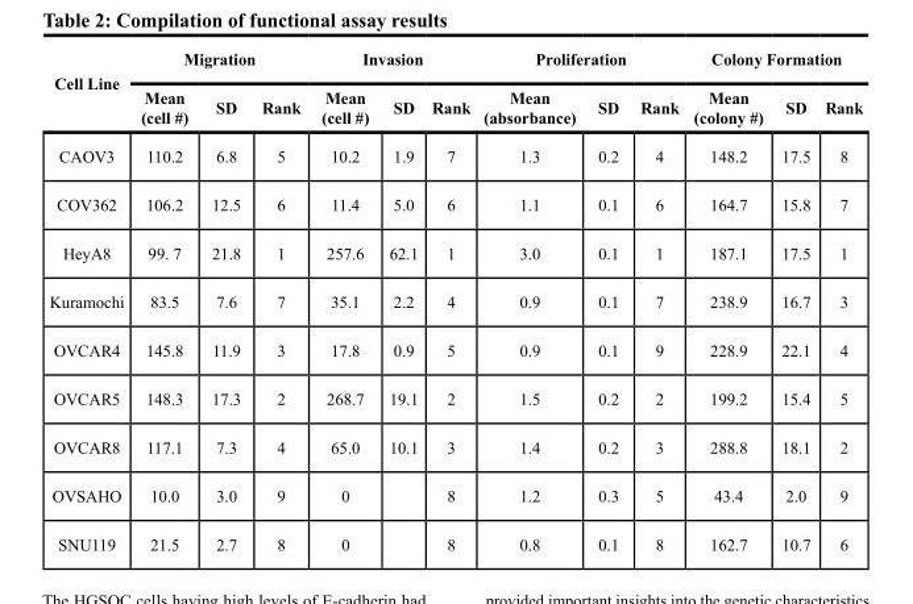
<table><thead><tr><td rowspan="2">Cell Line</td><td colspan="3">Migration</td><td colspan="3">Invasion</td><td colspan="3">Proliferation</td><td colspan="3">Colony Formation</td></tr><tr><td>Mean (cell #)</td><td>SD</td><td>Rank</td><td>Mean (cell #)</td><td>SD</td><td>Rank</td><td>Mean (absorbance)</td><td>SD</td><td>Rank</td><td>Mean (colony #)</td><td>SD</td><td>Rank</td></tr></thead><tbody><tr><td>CAOV3</td><td>110.2</td><td>6.8</td><td>5</td><td>10.2</td><td>1.9</td><td>7</td><td>1.3</td><td>0.2</td><td>4</td><td>148.2</td><td>17.5</td><td>8</td></tr><tr><td>COV362</td><td>106.2</td><td>12.5</td><td>6</td><td>11.4</td><td>5.0</td><td>6</td><td>1.1</td><td>0.1</td><td>6</td><td>164.7</td><td>15.8</td><td>7</td></tr><tr><td>HeyA8</td><td>99. 7</td><td>21.8</td><td>1</td><td>257.6</td><td>62.1</td><td>1</td><td>3.0</td><td>0.1</td><td>1</td><td>187.1</td><td>17.5</td><td>1</td></tr><tr><td>Kuramochi</td><td>83.5</td><td>7.6</td><td>7</td><td>35.1</td><td>2.2</td><td>4</td><td>0.9</td><td>0.1</td><td>7</td><td>238.9</td><td>16.7</td><td>3</td></tr><tr><td>OVCAR4</td><td>145.8</td><td>11.9</td><td>3</td><td>17.8</td><td>0.9</td><td>5</td><td>0.9</td><td>0.1</td><td>9</td><td>228.9</td><td>22.1</td><td>4</td></tr><tr><td>OVCAR5</td><td>148.3</td><td>17.3</td><td>2</td><td>268.7</td><td>19.1</td><td>2</td><td>1.5</td><td>0.2</td><td>2</td><td>199.2</td><td>15.4</td><td>5</td></tr><tr><td>OVCAR8</td><td>117.1</td><td>7.3</td><td>4</td><td>65.0</td><td>10.1</td><td>3</td><td>1.4</td><td>0.2</td><td>3</td><td>288.8</td><td>18.1</td><td>2</td></tr><tr><td>OVSAHO</td><td>10.0</td><td>3.0</td><td>9</td><td>0</td><td></td><td>8</td><td>1.2</td><td>0.3</td><td>5</td><td>43.4</td><td>2.0</td><td>9</td></tr><tr><td>SNU119</td><td>21.5</td><td>2.7</td><td>8</td><td>0</td><td></td><td>8</td><td>0.8</td><td>0.1</td><td>8</td><td>162.7</td><td>10.7</td><td>6</td></tr></tbody></table>